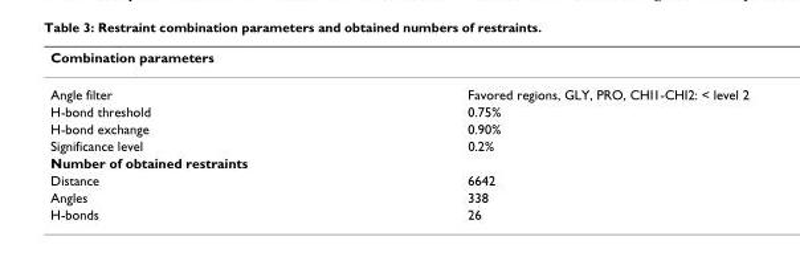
<table><thead><tr><td colspan="2">Combination parameters</td></tr><tr><td>Angle filter</td><td>Favored regions, GLY, PRO, CHI1-CHI2: &lt; level 2</td></tr></thead><tbody><tr><td>H-bond threshold</td><td>0.75%</td></tr><tr><td>H-bond exchange</td><td>0.90%</td></tr><tr><td>Significance level</td><td>0.2%</td></tr><tr><td colspan="2">Number of obtained restraints</td></tr><tr><td>Distance</td><td>6642</td></tr><tr><td>Angles</td><td>338</td></tr><tr><td>H-bonds</td><td>26</td></tr></tbody></table>